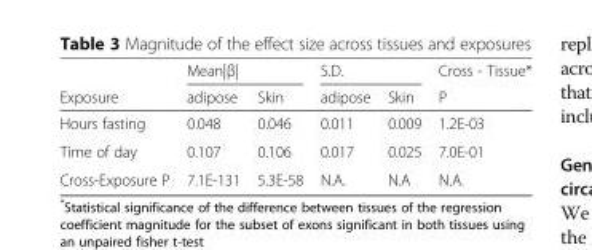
<table><thead><tr><td rowspan="2">Exposure</td><td colspan="2">Mean|β|</td><td colspan="2">S.D.</td><td rowspan="2">Cross - Tissue* P</td></tr><tr><td>adipose</td><td>Skin</td><td>adipose</td><td>Skin</td></tr></thead><tbody><tr><td>Hours fasting</td><td>0.048</td><td>0.046</td><td>0.011</td><td>0.009</td><td>1.2E-03</td></tr><tr><td>Time of day</td><td>0.107</td><td>0.106</td><td>0.017</td><td>0.025</td><td>7.0E-01</td></tr><tr><td>Cross-Exposure P</td><td>7.1E-131</td><td>5.3E-58</td><td>N.A.</td><td>N.A</td><td>N.A.</td></tr></tbody></table>